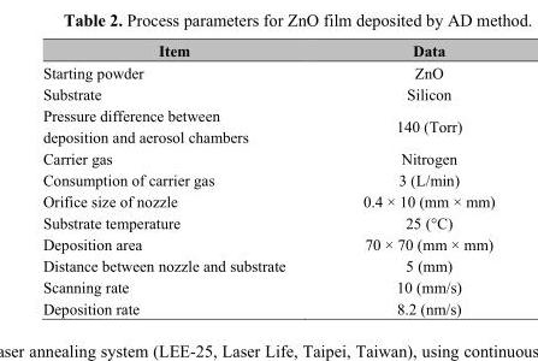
<table><thead><tr><td>Item</td><td>Data</td></tr></thead><tbody><tr><td>Starting powder</td><td>ZnO</td></tr><tr><td>Substrate</td><td>Silicon</td></tr><tr><td>Pressure difference between deposition and aerosol chambers</td><td>140 (Torr)</td></tr><tr><td>Carrier gas</td><td>Nitrogen</td></tr><tr><td>Consumption of carrier gas</td><td>3 (L/min)</td></tr><tr><td>Orifice size of nozzle</td><td>0.4 × 10 (mm × mm)</td></tr><tr><td>Substrate temperature</td><td>25 (°C)</td></tr><tr><td>Deposition area</td><td>70 × 70 (mm × mm)</td></tr><tr><td>Distance between nozzle and substrate</td><td>5 (mm)</td></tr><tr><td>Scanning rate</td><td>10 (mm/s)</td></tr><tr><td>Deposition rate</td><td>8.2 (nm/s)</td></tr></tbody></table>